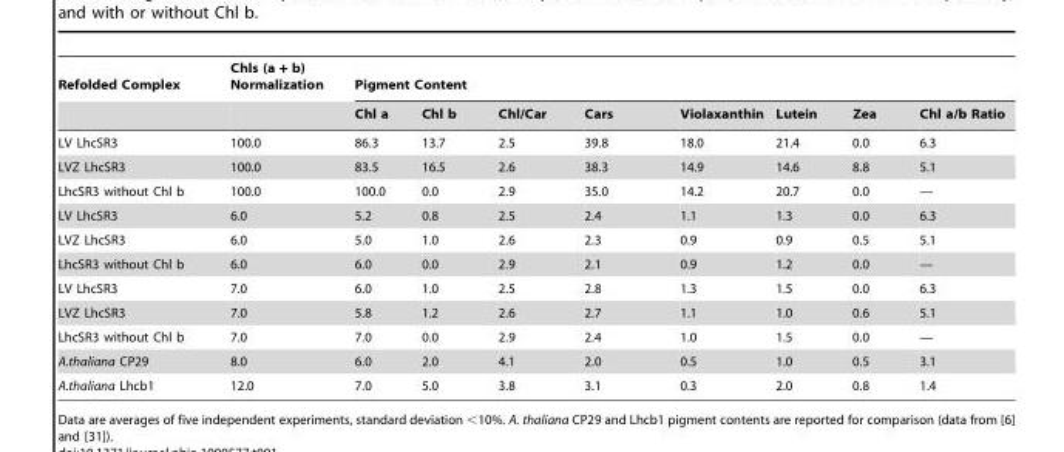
<table><thead><tr><td rowspan="2">Refolded Complex</td><td rowspan="2">Chls (a + b) Normalization</td><td colspan="8">Pigment Content</td></tr><tr><td>Chl a</td><td>Chl b</td><td>Chl/Car</td><td>Cars</td><td>Violaxanthin</td><td>Lutein</td><td>Zea</td><td>Chl a/b Ratio</td></tr></thead><tbody><tr><td>LV LhcSR3</td><td>100.0</td><td>86.3</td><td>13.7</td><td>2.5</td><td>39.8</td><td>18.0</td><td>21.4</td><td>0.0</td><td>6.3</td></tr><tr><td>LVZ LhcSR3</td><td>100.0</td><td>83.5</td><td>16.5</td><td>2.6</td><td>38.3</td><td>14.9</td><td>14.6</td><td>8.8</td><td>5.1</td></tr><tr><td>LhcSR3 without Chl b</td><td>100.0</td><td>100.0</td><td>0.0</td><td>2.9</td><td>35.0</td><td>14.2</td><td>20.7</td><td>0.0</td><td>—</td></tr><tr><td>LV LhcSR3</td><td>6.0</td><td>5.2</td><td>0.8</td><td>2.5</td><td>2.4</td><td>1.1</td><td>1.3</td><td>0.0</td><td>6.3</td></tr><tr><td>LVZ LhcSR3</td><td>6.0</td><td>5.0</td><td>1.0</td><td>2.6</td><td>2.3</td><td>0.9</td><td>0.9</td><td>0.5</td><td>5.1</td></tr><tr><td>LhcSR3 without Chl b</td><td>6.0</td><td>6.0</td><td>0.0</td><td>2.9</td><td>2.1</td><td>0.9</td><td>1.2</td><td>0.0</td><td>—</td></tr><tr><td>LV LhcSR3</td><td>7.0</td><td>6.0</td><td>1.0</td><td>2.5</td><td>2.8</td><td>1.3</td><td>1.5</td><td>0.0</td><td>6.3</td></tr><tr><td>LVZ LhcSR3</td><td>7.0</td><td>5.8</td><td>1.2</td><td>2.6</td><td>2.7</td><td>1.1</td><td>1.0</td><td>0.6</td><td>5.1</td></tr><tr><td>LhcSR3 without Chl b</td><td>7.0</td><td>7.0</td><td>0.0</td><td>2.9</td><td>2.4</td><td>1.0</td><td>1.5</td><td>0.0</td><td>—</td></tr><tr><td>A.thaliana CP29</td><td>8.0</td><td>6.0</td><td>2.0</td><td>4.1</td><td>2.0</td><td>0.5</td><td>1.0</td><td>0.5</td><td>3.1</td></tr><tr><td>A.thaliana Lhcb1</td><td>12.0</td><td>7.0</td><td>5.0</td><td>3.8</td><td>3.1</td><td>0.3</td><td>2.0</td><td>0.8</td><td>1.4</td></tr></tbody></table>